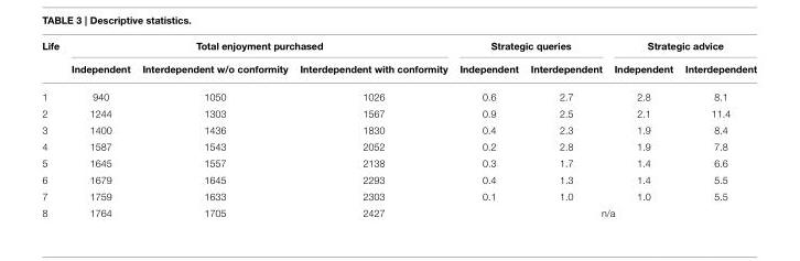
<table><thead><tr><td rowspan="2">Life</td><td colspan="3">Total enjoyment purchased</td><td colspan="2">Strategic queries</td><td colspan="2">Strategic advice</td></tr><tr><td>Independent</td><td>Interdependent w/o conformity</td><td>Interdependent with conformity</td><td>Independent</td><td>Interdependent</td><td>Independent</td><td>Interdependent</td></tr></thead><tbody><tr><td>1</td><td>940</td><td>1050</td><td>1026</td><td>0.6</td><td>2.7</td><td>2.8</td><td>8.1</td></tr><tr><td>2</td><td>1244</td><td>1303</td><td>1567</td><td>0.9</td><td>2.5</td><td>2.1</td><td>11.4</td></tr><tr><td>3</td><td>1400</td><td>1436</td><td>1830</td><td>0.4</td><td>2.3</td><td>1.9</td><td>8.4</td></tr><tr><td>4</td><td>1587</td><td>1543</td><td>2052</td><td>0.2</td><td>2.8</td><td>1.9</td><td>7.8</td></tr><tr><td>5</td><td>1645</td><td>1557</td><td>2138</td><td>0.3</td><td>1.7</td><td>1.4</td><td>6.6</td></tr><tr><td>6</td><td>1679</td><td>1645</td><td>2293</td><td>0.4</td><td>1.3</td><td>1.4</td><td>5.5</td></tr><tr><td>7</td><td>1759</td><td>1633</td><td>2303</td><td>0.1</td><td>1.0</td><td>1.0</td><td>5.5</td></tr><tr><td>8</td><td>1764</td><td>1705</td><td>2427</td><td colspan="4">n/a</td></tr></tbody></table>